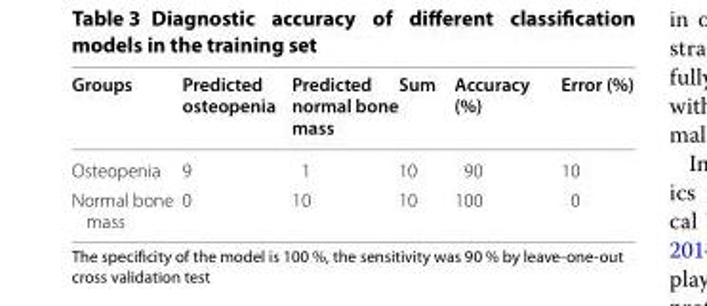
<table><thead><tr><td>Groups</td><td>Predicted osteopenia</td><td>Predicted normal bone mass</td><td>Sum</td><td>Accuracy (%)</td><td>Error (%)</td></tr></thead><tbody><tr><td>Osteopenia</td><td>9</td><td>1</td><td>10</td><td>90</td><td>10</td></tr><tr><td>Normal bone mass</td><td>0</td><td>10</td><td>10</td><td>100</td><td>0</td></tr></tbody></table>